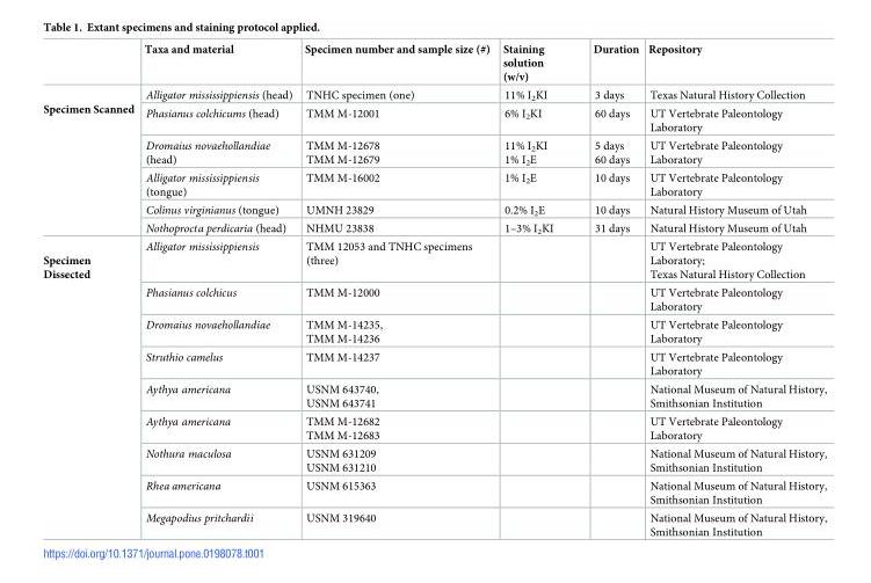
<table><thead><tr><td></td><td>Taxa and material</td><td>Specimen number and sample size (#)</td><td>Staining solution (w/v)</td><td>Duration</td><td>Repository</td></tr></thead><tbody><tr><td rowspan="6">Specimen Scanned</td><td>Alligator mississippiensis (head)</td><td>TNHC specimen (one)</td><td>11% I<sub>2</sub>KI</td><td>3 days</td><td>Texas Natural History Collection</td></tr><tr><td>Phasianus colchicums (head)</td><td>TMM M-12001</td><td>6% I<sub>2</sub>KI</td><td>60 days</td><td>UT Vertebrate Paleontology Laboratory</td></tr><tr><td>Dromaius novaehollandiae (head)</td><td>TMM M-12678 TMM M-12679</td><td>11% I<sub>2</sub>KI 1% I<sub>2</sub>E</td><td>5 days 60 days</td><td>UT Vertebrate Paleontology Laboratory</td></tr><tr><td>Alligator mississippiensis (tongue)</td><td>TMM M-16002</td><td>1% I<sub>2</sub>E</td><td>10 days</td><td>UT Vertebrate Paleontology Laboratory</td></tr><tr><td>Colinus virginianus (tongue)</td><td>UMNH 23829</td><td>0.2% I<sub>2</sub>E</td><td>10 days</td><td>Natural History Museum of Utah</td></tr><tr><td>Nothoprocta perdicaria (head)</td><td>NHMU 23838</td><td>1–3% I<sub>2</sub>KI</td><td>31 days</td><td>Natural History Museum of Utah</td></tr><tr><td rowspan="9">Specimen Dissected</td><td>Alligator mississippiensis</td><td>TMM 12053 and TNHC specimens (three)</td><td></td><td></td><td>UT Vertebrate Paleontology Laboratory; Texas Natural History Collection</td></tr><tr><td>Phasianus colchicus</td><td>TMM M-12000</td><td></td><td></td><td>UT Vertebrate Paleontology Laboratory</td></tr><tr><td>Dromaius novaehollandiae</td><td>TMM M-14235, TMM M-14236</td><td></td><td></td><td>UT Vertebrate Paleontology Laboratory</td></tr><tr><td>Struthio camelus</td><td>TMM M-14237</td><td></td><td></td><td>UT Vertebrate Paleontology Laboratory</td></tr><tr><td>Aythya americana</td><td>USNM 643740, USNM 643741</td><td></td><td></td><td>National Museum of Natural History, Smithsonian Institution</td></tr><tr><td>Aythya americana</td><td>TMM M-12682 TMM M-12683</td><td></td><td></td><td>UT Vertebrate Paleontology Laboratory</td></tr><tr><td>Nothura maculosa</td><td>USNM 631209 USNM 631210</td><td></td><td></td><td>National Museum of Natural History, Smithsonian Institution</td></tr><tr><td>Rhea americana</td><td>USNM 615363</td><td></td><td></td><td>National Museum of Natural History, Smithsonian Institution</td></tr><tr><td>Megapodius pritchardii</td><td>USNM 319640</td><td></td><td></td><td>National Museum of Natural History, Smithsonian Institution</td></tr></tbody></table>